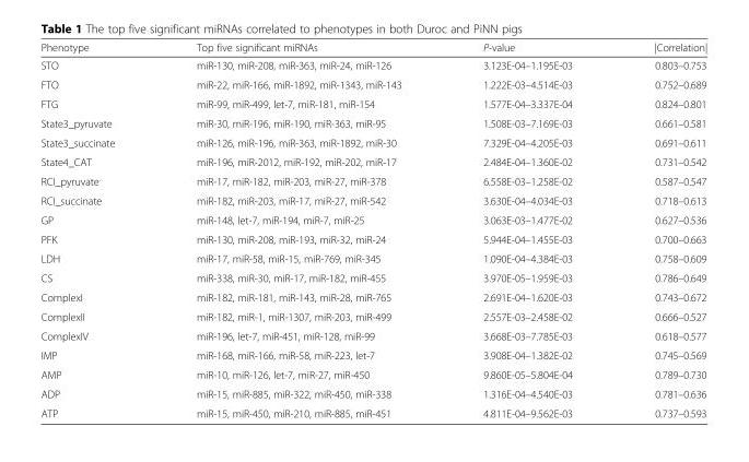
<table><thead><tr><td>Phenotype</td><td>Top five significant miRNAs</td><td>P-value</td><td>|Correlation|</td></tr></thead><tbody><tr><td>STO</td><td>miR-130, miR-208, miR-363, miR-24, miR-126</td><td>3.123E-04–1.195E-03</td><td>0.803–0.753</td></tr><tr><td>FTO</td><td>miR-22, miR-166, miR-1892, miR-1343, miR-143</td><td>1.222E-03–4.514E-03</td><td>0.752–0.689</td></tr><tr><td>FTG</td><td>miR-99, miR-499, let-7, miR-181, miR-154</td><td>1.577E-04–3.337E-04</td><td>0.824–0.801</td></tr><tr><td>State3_pyruvate</td><td>miR-30, miR-196, miR-190, miR-363, miR-95</td><td>1.508E-03–7.169E-03</td><td>0.661–0.581</td></tr><tr><td>State3_succinate</td><td>miR-126, miR-196, miR-363, miR-1892, miR-30</td><td>7.329E-04–4.205E-03</td><td>0.691–0.611</td></tr><tr><td>State4_CAT</td><td>miR-196, miR-2012, miR-192, miR-202, miR-17</td><td>2.484E-04–1.360E-02</td><td>0.731–0.542</td></tr><tr><td>RCI_pyruvate</td><td>miR-17, miR-182, miR-203, miR-27, miR-378</td><td>6.558E-03–1.258E-02</td><td>0.587–0.547</td></tr><tr><td>RCI_succinate</td><td>miR-182, miR-203, miR-17, miR-27, miR-542</td><td>3.630E-04–4.034E-03</td><td>0.718–0.613</td></tr><tr><td>GP</td><td>miR-148, let-7, miR-194, miR-7, miR-25</td><td>3.063E-03–1.477E-02</td><td>0.627–0.536</td></tr><tr><td>PFK</td><td>miR-130, miR-208, miR-193, miR-32, miR-24</td><td>5.944E-04–1.455E-03</td><td>0.700–0.663</td></tr><tr><td>LDH</td><td>miR-17, miR-58, miR-15, miR-769, miR-345</td><td>1.090E-04–4.384E-03</td><td>0.758–0.609</td></tr><tr><td>CS</td><td>miR-338, miR-30, miR-17, miR-182, miR-455</td><td>3.970E-05–1.959E-03</td><td>0.786–0.649</td></tr><tr><td>ComplexI</td><td>miR-182, miR-181, miR-143, miR-28, miR-765</td><td>2.691E-04–1.620E-03</td><td>0.743–0.672</td></tr><tr><td>ComplexII</td><td>miR-182, miR-1, miR-1307, miR-203, miR-499</td><td>2.557E-03–2.458E-02</td><td>0.666–0.527</td></tr><tr><td>ComplexIV</td><td>miR-196, let-7, miR-451, miR-128, miR-99</td><td>3.668E-03–7.785E-03</td><td>0.618–0.577</td></tr><tr><td>IMP</td><td>miR-168, miR-166, miR-58, miR-223, let-7</td><td>3.908E-04–1.382E-02</td><td>0.745–0.569</td></tr><tr><td>AMP</td><td>miR-10, miR-126, let-7, miR-27, miR-450</td><td>9.860E-05–5.804E-04</td><td>0.789–0.730</td></tr><tr><td>ADP</td><td>miR-15, miR-885, miR-322, miR-450, miR-338</td><td>1.316E-04–4.540E-03</td><td>0.781–0.636</td></tr><tr><td>ATP</td><td>miR-15, miR-450, miR-210, miR-885, miR-451</td><td>4.811E-04–9.562E-03</td><td>0.737–0.593</td></tr></tbody></table>